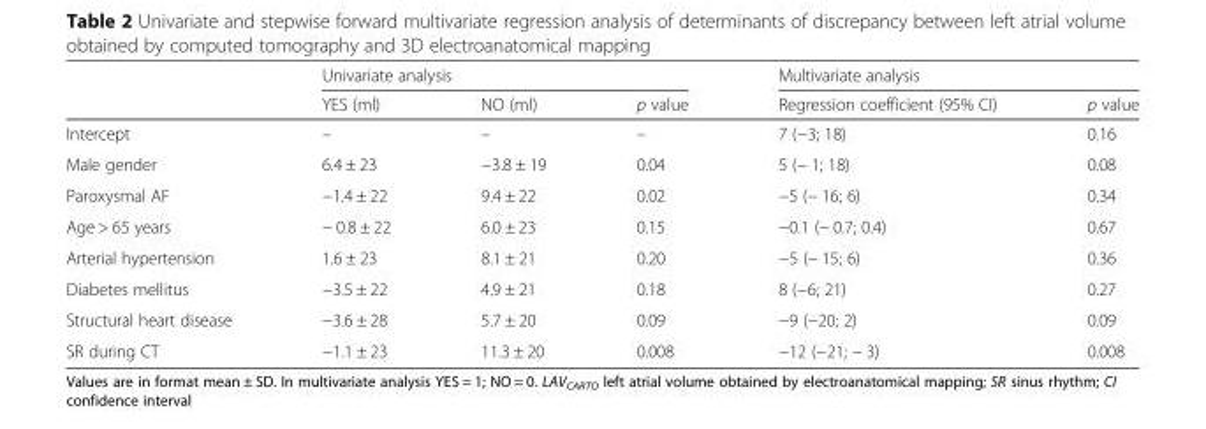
<table><thead><tr><td rowspan="2"></td><td colspan="3">Univariate analysis</td><td colspan="2">Multivariate analysis</td></tr><tr><td>YES (ml)</td><td>NO (ml)</td><td>p value</td><td>Regression coefficient (95% CI)</td><td>p value</td></tr></thead><tbody><tr><td>Intercept</td><td>–</td><td>–</td><td>–</td><td>7 (−3; 18)</td><td>0.16</td></tr><tr><td>Male gender</td><td>6.4 ± 23</td><td>−3.8 ± 19</td><td>0.04</td><td>5 (− 1; 18)</td><td>0.08</td></tr><tr><td>Paroxysmal AF</td><td>−1.4 ± 22</td><td>9.4 ± 22</td><td>0.02</td><td>−5 (− 16; 6)</td><td>0.34</td></tr><tr><td>Age &gt; 65 years</td><td>− 0.8 ± 22</td><td>6.0 ± 23</td><td>0.15</td><td>−0.1 (− 0.7; 0.4)</td><td>0.67</td></tr><tr><td>Arterial hypertension</td><td>1.6 ± 23</td><td>8.1 ± 21</td><td>0.20</td><td>−5 (− 15; 6)</td><td>0.36</td></tr><tr><td>Diabetes mellitus</td><td>−3.5 ± 22</td><td>4.9 ± 21</td><td>0.18</td><td>8 (−6; 21)</td><td>0.27</td></tr><tr><td>Structural heart disease</td><td>−3.6 ± 28</td><td>5.7 ± 20</td><td>0.09</td><td>−9 (−20; 2)</td><td>0.09</td></tr><tr><td>SR during CT</td><td>−1.1 ± 23</td><td>11.3 ± 20</td><td>0.008</td><td>−12 (−21; − 3)</td><td>0.008</td></tr></tbody></table>